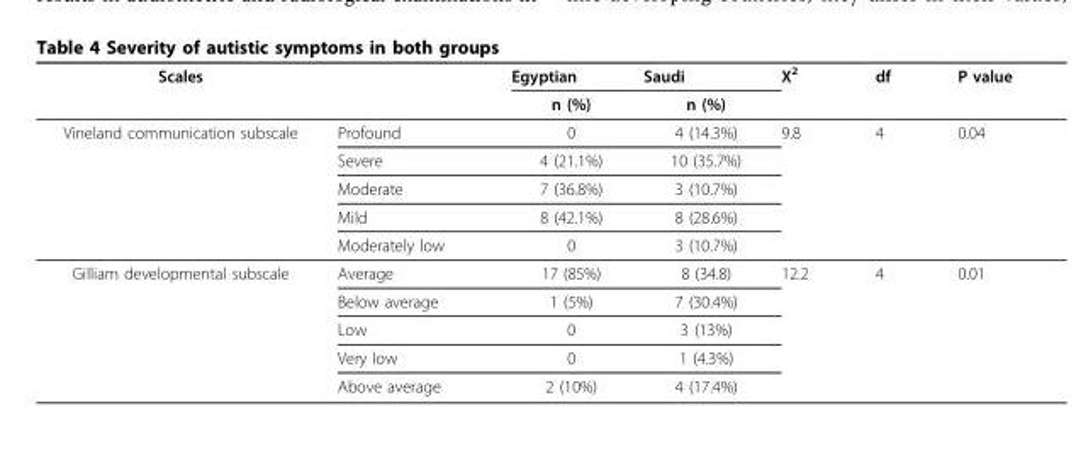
<table><thead><tr><td rowspan="2">Scales</td><td rowspan="2"></td><td rowspan="2">Egyptian n (%)</td><td rowspan="2">Saudi n (%)</td><td rowspan="2">X<sup>2</sup></td><td rowspan="2">df</td><td rowspan="2">P value</td></tr><tr></tr></thead><tbody><tr><td rowspan="5">Vineland communication subscale</td><td>Profound</td><td>0</td><td>4 (14.3%)</td><td>9.8</td><td>4</td><td>0.04</td></tr><tr><td>Severe</td><td>4 (21.1%)</td><td>10 (35.7%)</td><td></td><td></td><td></td></tr><tr><td>Moderate</td><td>7 (36.8%)</td><td>3 (10.7%)</td><td></td><td></td><td></td></tr><tr><td>Mild</td><td>8 (42.1%)</td><td>8 (28.6%)</td><td></td><td></td><td></td></tr><tr><td>Moderately low</td><td>0</td><td>3 (10.7%)</td><td></td><td></td><td></td></tr><tr><td rowspan="5">Gilliam developmental subscale</td><td>Average</td><td>17 (85%)</td><td>8 (34.8)</td><td>12.2</td><td>4</td><td>0.01</td></tr><tr><td>Below average</td><td>1 (5%)</td><td>7 (30.4%)</td><td></td><td></td><td></td></tr><tr><td>Low</td><td>0</td><td>3 (13%)</td><td></td><td></td><td></td></tr><tr><td>Very low</td><td>0</td><td>1 (4.3%)</td><td></td><td></td><td></td></tr><tr><td>Above average</td><td>2 (10%)</td><td>4 (17.4%)</td><td></td><td></td><td></td></tr></tbody></table>